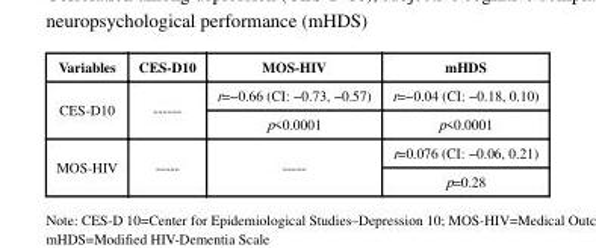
<table><thead><tr><td>Variables</td><td>CES-D10</td><td>MOS-HIV</td><td>mHDS</td></tr></thead><tbody><tr><td rowspan="2">CES-D10</td><td rowspan="2">------</td><td>r=−0.66 (CI: −0.73, −0.57)</td><td>r=−0.04 (CI: −0.18, 0.10)</td></tr><tr><td>p&lt;0.0001</td><td>p&lt;0.0001</td></tr><tr><td rowspan="2">MOS-HIV</td><td rowspan="2">-----</td><td rowspan="2">-----</td><td>r=0.076 (CI: −0.06, 0.21)</td></tr><tr><td>p=0.28</td></tr></tbody></table>